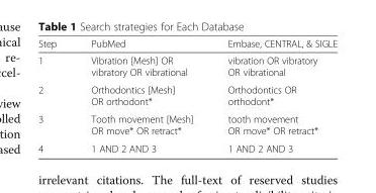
<table><thead><tr><td>Step</td><td>PubMed</td><td>Embase, CENTRAL, &amp; SIGLE</td></tr></thead><tbody><tr><td>1</td><td>Vibration [Mesh] OR vibratory OR vibrational</td><td>vibration OR vibratory OR vibrational</td></tr><tr><td>2</td><td>Orthodontics [Mesh] OR orthodont*</td><td>Orthodontics OR orthodont*</td></tr><tr><td>3</td><td>Tooth movement [Mesh] OR move* OR retract*</td><td>tooth movement OR move* OR retract*</td></tr><tr><td>4</td><td>1 AND 2 AND 3</td><td>1 AND 2 AND 3</td></tr></tbody></table>